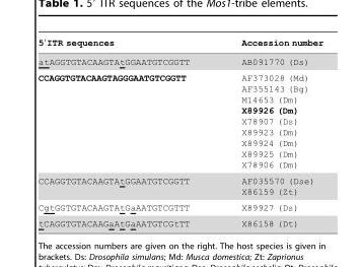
<table><thead><tr><td>5′ITR sequences</td><td>Accession number</td></tr></thead><tbody><tr><td>atAGGTGTACAAGTAtGGAATGTCGGTT</td><td>AB091770 (Ds)</td></tr><tr><td>CCAGGTGTACAAGTAGGGAATGTCGGTT</td><td>AF373028 (Md) AF355143 (Bg) M14653 (Dm) X89926 (Dm) X78907 (Ds) X89923 (Dm) X89924 (Dm) X89925 (Dm) X78906 (Dm)</td></tr><tr><td>CCAGGTGTACAAGTAtGGAATGTCGGTT</td><td>AF035570 (Dse) X86159 (Zt)</td></tr><tr><td>CgtGGTGTACAAGTAtGaAATGTCGTTT</td><td>X89927 (Ds)</td></tr><tr><td>tCAGGTGTACAAGaAtGaAATGTCGtTT</td><td>X86158 (Dt)</td></tr></tbody></table>